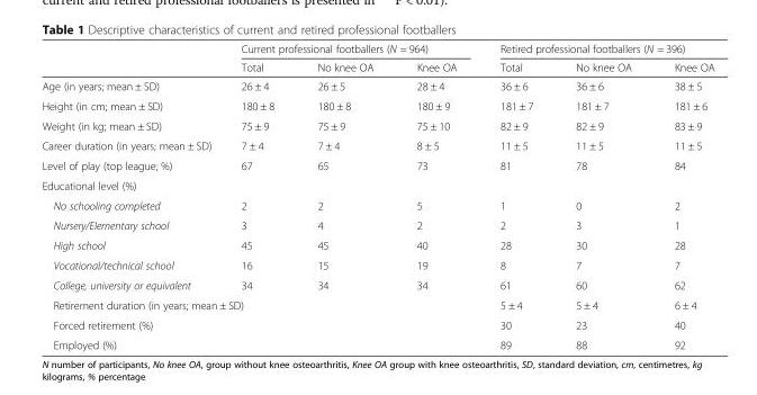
<table><thead><tr><td rowspan="2"></td><td colspan="3">Current professional footballers (N = 964)</td><td colspan="3">Retired professional footballers (N = 396)</td></tr><tr><td>Total</td><td>No knee OA</td><td>Knee OA</td><td>Total</td><td>No knee OA</td><td>Knee OA</td></tr></thead><tbody><tr><td>Age (in years; mean ± SD)</td><td>26 ± 4</td><td>26 ± 5</td><td>28 ± 4</td><td>36 ± 6</td><td>36 ± 6</td><td>38 ± 5</td></tr><tr><td>Height (in cm; mean ± SD)</td><td>180 ± 8</td><td>180 ± 8</td><td>180 ± 9</td><td>181 ± 7</td><td>181 ± 7</td><td>181 ± 6</td></tr><tr><td>Weight (in kg; mean ± SD)</td><td>75 ± 9</td><td>75 ± 9</td><td>75 ± 10</td><td>82 ± 9</td><td>82 ± 9</td><td>83 ± 9</td></tr><tr><td>Career duration (in years; mean ± SD)</td><td>7 ± 4</td><td>7 ± 4</td><td>8 ± 5</td><td>11 ± 5</td><td>11 ± 5</td><td>11 ± 5</td></tr><tr><td>Level of play (top league; %)</td><td>67</td><td>65</td><td>73</td><td>81</td><td>78</td><td>84</td></tr><tr><td colspan="7">Educational level (%)</td></tr><tr><td>No schooling completed</td><td>2</td><td>2</td><td>5</td><td>1</td><td>0</td><td>2</td></tr><tr><td>Nursery/Elementary school</td><td>3</td><td>4</td><td>2</td><td>2</td><td>3</td><td>1</td></tr><tr><td>High school</td><td>45</td><td>45</td><td>40</td><td>28</td><td>30</td><td>28</td></tr><tr><td>Vocational/technical school</td><td>16</td><td>15</td><td>19</td><td>8</td><td>7</td><td>7</td></tr><tr><td>College, university or equivalent</td><td>34</td><td>34</td><td>34</td><td>61</td><td>60</td><td>62</td></tr><tr><td colspan="4">Retirement duration (in years; mean ± SD)</td><td>5 ± 4</td><td>5 ± 4</td><td>6 ± 4</td></tr><tr><td colspan="4">Forced retirement (%)</td><td>30</td><td>23</td><td>40</td></tr><tr><td colspan="4">Employed (%)</td><td>89</td><td>88</td><td>92</td></tr></tbody></table>